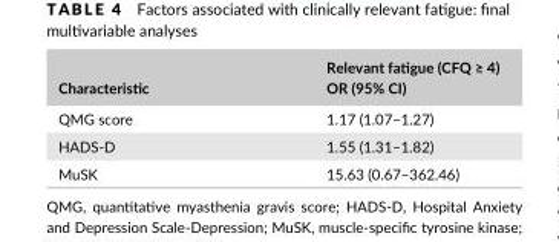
<table><thead><tr><td>Characteristic</td><td>Relevant fatigue (CFQ ≥ 4) OR (95% CI)</td></tr></thead><tbody><tr><td>QMG score</td><td>1.17 (1.07–1.27)</td></tr><tr><td>HADS- D</td><td>1.55 (1.31–1.82)</td></tr><tr><td>MuSK</td><td>15.63 (0.67–362.46)</td></tr></tbody></table>